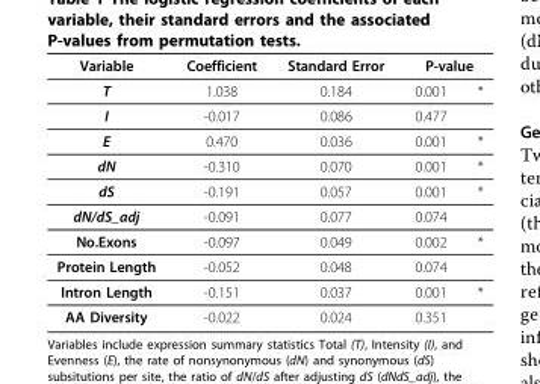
<table><thead><tr><td rowspan="2">Variable T</td><td rowspan="2">Coefficient 1.038</td><td rowspan="2">Standard Error 0.184</td><td colspan="2">P-value</td></tr><tr><td>0.001</td><td>*</td></tr></thead><tbody><tr><td>I</td><td>-0.017</td><td>0.086</td><td>0.477</td><td></td></tr><tr><td>E</td><td>0.470</td><td>0.036</td><td>0.001</td><td>*</td></tr><tr><td>dN</td><td>-0.310</td><td>0.070</td><td>0.001</td><td>*</td></tr><tr><td>dS</td><td>-0.191</td><td>0.057</td><td>0.001</td><td>*</td></tr><tr><td>dN/dS_adj</td><td>-0.091</td><td>0.077</td><td>0.074</td><td></td></tr><tr><td>No.Exons</td><td>-0.097</td><td>0.049</td><td>0.002</td><td>*</td></tr><tr><td>Protein Length</td><td>-0.052</td><td>0.048</td><td>0.074</td><td></td></tr><tr><td>Intron Length</td><td>-0.151</td><td>0.037</td><td>0.001</td><td>*</td></tr><tr><td>AA Diversity</td><td>-0.022</td><td>0.024</td><td>0.351</td><td></td></tr></tbody></table>